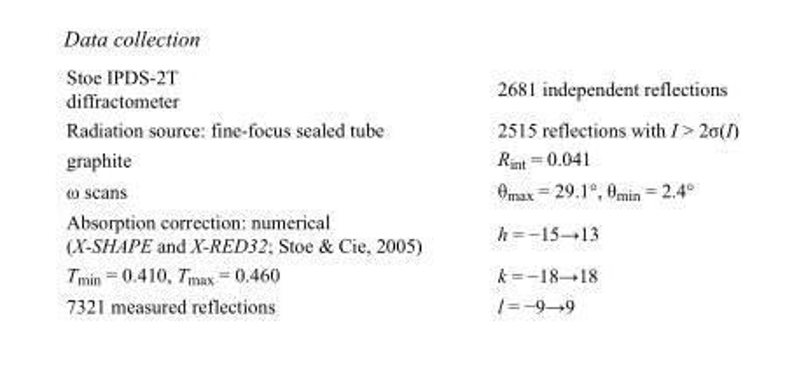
<table><tbody><tr><td>Stoe IPDS-2T diffractometer</td><td>2681 independent reflections</td></tr><tr><td>Radiation source: fine-focus sealed tube</td><td>2515 reflections with I &gt; 2σ(I)</td></tr><tr><td>graphite</td><td>R<sub>int</sub> = 0.041</td></tr><tr><td>ω scans</td><td>θ<sub>max</sub> = 29.1°, θ<sub>min</sub> = 2.4°</td></tr><tr><td>Absorption correction: numerical (X-SHAPE and X-RED32; Stoe &amp; Cie, 2005)</td><td>h = −15→13</td></tr><tr><td>T<sub>min</sub> = 0.410, T<sub>max</sub> = 0.460</td><td>k = −18→18</td></tr><tr><td>7321 measured reflections</td><td>l = −9→9</td></tr></tbody></table>